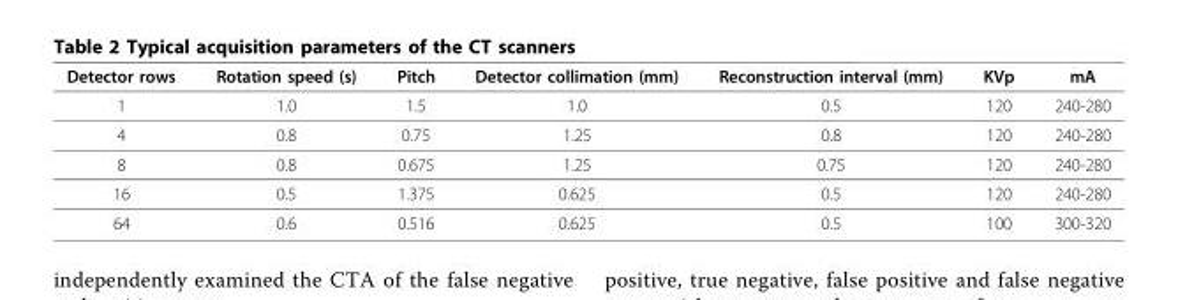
<table><thead><tr><td>Detector rows</td><td>Rotation speed (s)</td><td>Pitch</td><td>Detector collimation (mm)</td><td>Reconstruction interval (mm)</td><td>KVp</td><td>mA</td></tr></thead><tbody><tr><td>1</td><td>1.0</td><td>1.5</td><td>1.0</td><td>0.5</td><td>120</td><td>240-280</td></tr><tr><td>4</td><td>0.8</td><td>0.75</td><td>1.25</td><td>0.8</td><td>120</td><td>240-280</td></tr><tr><td>8</td><td>0.8</td><td>0.675</td><td>1.25</td><td>0.75</td><td>120</td><td>240-280</td></tr><tr><td>16</td><td>0.5</td><td>1.375</td><td>0.625</td><td>0.5</td><td>120</td><td>240-280</td></tr><tr><td>64</td><td>0.6</td><td>0.516</td><td>0.625</td><td>0.5</td><td>100</td><td>300-320</td></tr></tbody></table>